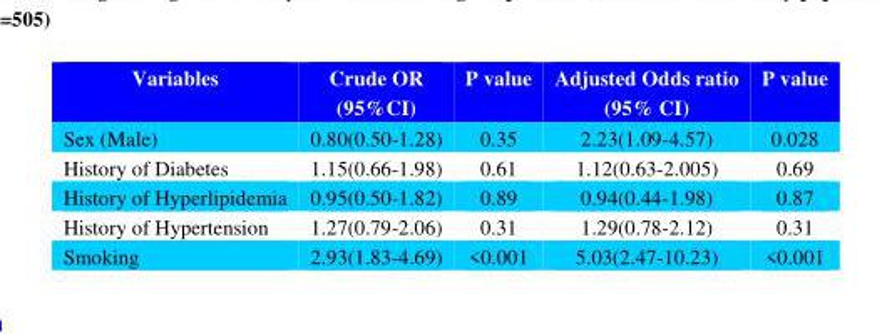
<table><thead><tr><td>Variables</td><td>Crude OR (95%CI)</td><td>P value</td><td>Adjusted Odds ratio (95% CI)</td><td>P value</td></tr></thead><tbody><tr><td>Sex (Male)</td><td>0.80(0.50-1.28)</td><td>0.35</td><td>2.23(1.09-4.57)</td><td>0.028</td></tr><tr><td>History of Diabetes</td><td>1.15(0.66-1.98)</td><td>0.61</td><td>1.12(0.63-2.005)</td><td>0.69</td></tr><tr><td>History of Hyperlipidemia</td><td>0.95(0.50-1.82)</td><td>0.89</td><td>0.94(0.44-1.98)</td><td>0.87</td></tr><tr><td>History of Hypertension</td><td>1.27(0.79-2.06)</td><td>0.31</td><td>1.29(0.78-2.12)</td><td>0.31</td></tr><tr><td>Smoking</td><td>2.93(1.83-4.69)</td><td>&lt;0.001</td><td>5.03(2.47-10.23)</td><td>&lt;0.001</td></tr></tbody></table>